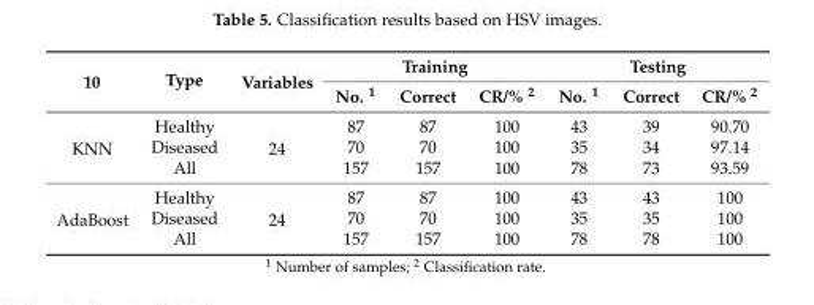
<table><thead><tr><td rowspan="2">10</td><td rowspan="2">Type</td><td rowspan="2">Variables</td><td colspan="3">Training</td><td colspan="3">Testing</td></tr><tr><td>No. <sup>1</sup></td><td>Correct</td><td>CR/% <sup>2</sup></td><td>No. <sup>1</sup></td><td>Correct</td><td>CR/% <sup>2</sup></td></tr></thead><tbody><tr><td rowspan="3">KNN</td><td>Healthy</td><td rowspan="3">24</td><td>87</td><td>87</td><td>100</td><td>43</td><td>39</td><td>90.70</td></tr><tr><td>Diseased</td><td>70</td><td>70</td><td>100</td><td>35</td><td>34</td><td>97.14</td></tr><tr><td>All</td><td>157</td><td>157</td><td>100</td><td>78</td><td>73</td><td>93.59</td></tr><tr><td rowspan="3">AdaBoost</td><td>Healthy</td><td rowspan="3">24</td><td>87</td><td>87</td><td>100</td><td>43</td><td>43</td><td>100</td></tr><tr><td>Diseased</td><td>70</td><td>70</td><td>100</td><td>35</td><td>35</td><td>100</td></tr><tr><td>All</td><td>157</td><td>157</td><td>100</td><td>78</td><td>78</td><td>100</td></tr></tbody></table>